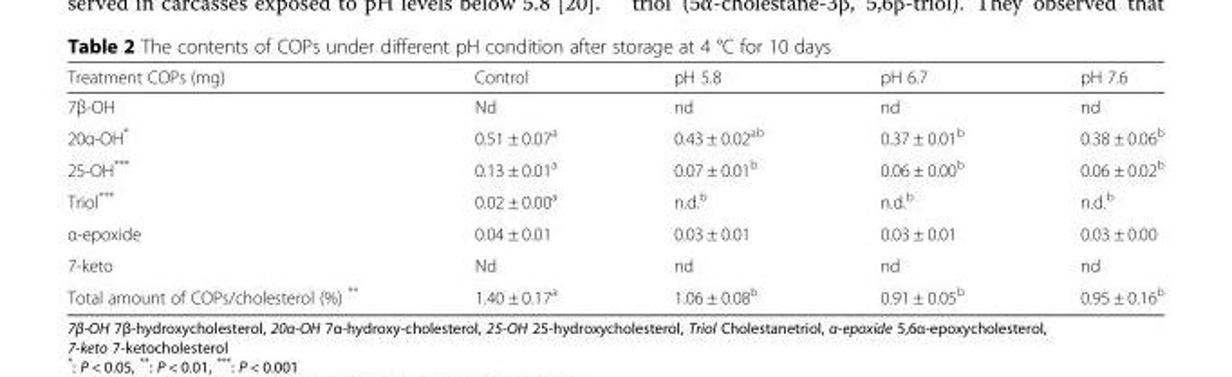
<table><thead><tr><td>Treatment COPs (mg)</td><td>Control</td><td>pH 5.8</td><td>pH 6.7</td><td>pH 7.6</td></tr></thead><tbody><tr><td>7β-OH</td><td>Nd</td><td>nd</td><td>nd</td><td>nd</td></tr><tr><td>20α-OH*</td><td>0.51 ± 0.07<sup>a</sup></td><td>0.43 ± 0.02<sup>ab</sup></td><td>0.37 ± 0.01<sup>b</sup></td><td>0.38 ± 0.06<sup>b</sup></td></tr><tr><td>25-OH***</td><td>0.13 ± 0.01<sup>a</sup></td><td>0.07 ± 0.01<sup>b</sup></td><td>0.06 ± 0.00<sup>b</sup></td><td>0.06 ± 0.02<sup>b</sup></td></tr><tr><td>Triol***</td><td>0.02 ± 0.00<sup>a</sup></td><td>n.d.<sup>b</sup></td><td>n.d.<sup>b</sup></td><td>n.d.<sup>b</sup></td></tr><tr><td>α-epoxide</td><td>0.04 ± 0.01</td><td>0.03 ± 0.01</td><td>0.03 ± 0.01</td><td>0.03 ± 0.00</td></tr><tr><td>7-keto</td><td>Nd</td><td>nd</td><td>nd</td><td>nd</td></tr><tr><td>Total amount of COPs/cholesterol (%) **</td><td>1.40 ± 0.17<sup>a</sup></td><td>1.06 ± 0.08<sup>b</sup></td><td>0.91 ± 0.05<sup>b</sup></td><td>0.95 ± 0.16<sup>b</sup></td></tr></tbody></table>